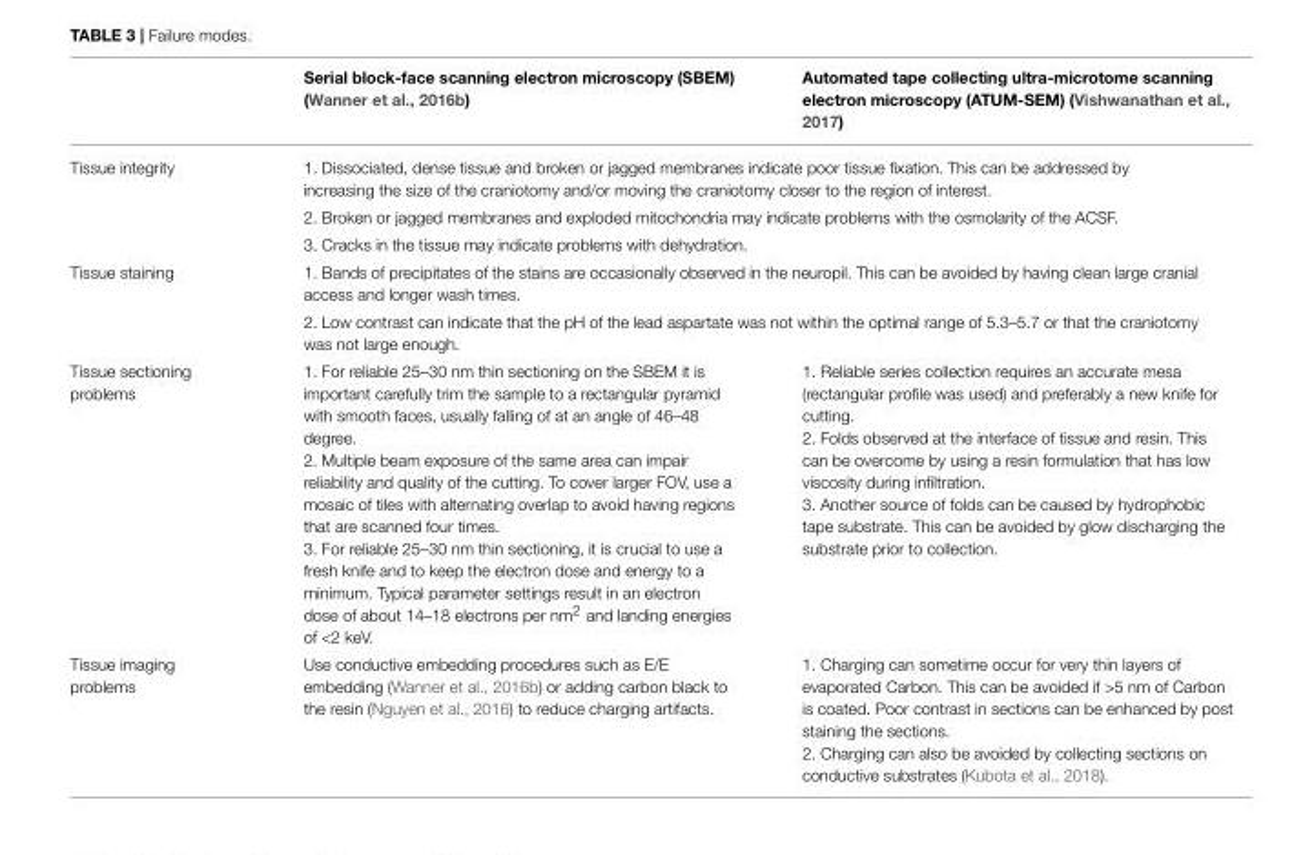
<table><thead><tr><td></td><td>Serial block-face scanning electron microscopy (SBEM) (Wanner et al., 2016b)</td><td>Automated tape collecting ultra-microtome scanning electron microscopy (ATUM-SEM) (Vishwanathan et al., 2017)</td></tr></thead><tbody><tr><td rowspan="3">Tissue integrity</td><td colspan="2">1. Dissociated, dense tissue and broken or jagged membranes indicate poor tissue fixation. This can be addressed by increasing the size of the craniotomy and/or moving the craniotomy closer to the region of interest.</td></tr><tr><td colspan="2">2. Broken or jagged membranes and exploded mitochondria may indicate problems with the osmolarity of the ACSF.</td></tr><tr><td colspan="2">3. Cracks in the tissue may indicate problems with dehydration.</td></tr><tr><td rowspan="2">Tissue staining</td><td colspan="2">1. Bands of precipitates of the stains are occasionally observed in the neuropil. This can be avoided by having clean large cranial access and longer wash times.</td></tr><tr><td colspan="2">2. Low contrast can indicate that the pH of the lead aspartate was not within the optimal range of 5.3–5.7 or that the craniotomy was not large enough.</td></tr><tr><td>Tissue sectioning problems</td><td>1. For reliable 25–30 nm thin sectioning on the SBEM it is important carefully trim the sample to a rectangular pyramid with smooth faces, usually falling of at an angle of 46–48 degree. 2. Multiple beam exposure of the same area can impair reliability and quality of the cutting. To cover larger FOV, use a mosaic of tiles with alternating overlap to avoid having regions that are scanned four times. 3. For reliable 25–30 nm thin sectioning, it is crucial to use a fresh knife and to keep the electron dose and energy to a minimum. Typical parameter settings result in an electron dose of about 14–18 electrons per nm<sup>2</sup> and landing energies of &lt;2 keV.</td><td>1. Reliable series collection requires an accurate mesa (rectangular profile was used) and preferably a new knife for cutting. 2. Folds observed at the interface of tissue and resin. This can be overcome by using a resin formulation that has low viscosity during infiltration. 3. Another source of folds can be caused by hydrophobic tape substrate. This can be avoided by glow discharging the substrate prior to collection.</td></tr><tr><td>Tissue imaging problems</td><td>Use conductive embedding procedures such as E/E embedding (Wanner et al., 2016b) or adding carbon black to the resin (Nguyen et al., 2016) to reduce charging artifacts.</td><td>1. Charging can sometime occur for very thin layers of evaporated Carbon. This can be avoided if &gt;5 nm of Carbon is coated. Poor contrast in sections can be enhanced by post staining the sections. 2. Charging can also be avoided by collecting sections on conductive substrates (Kubota et al., 2018).</td></tr></tbody></table>